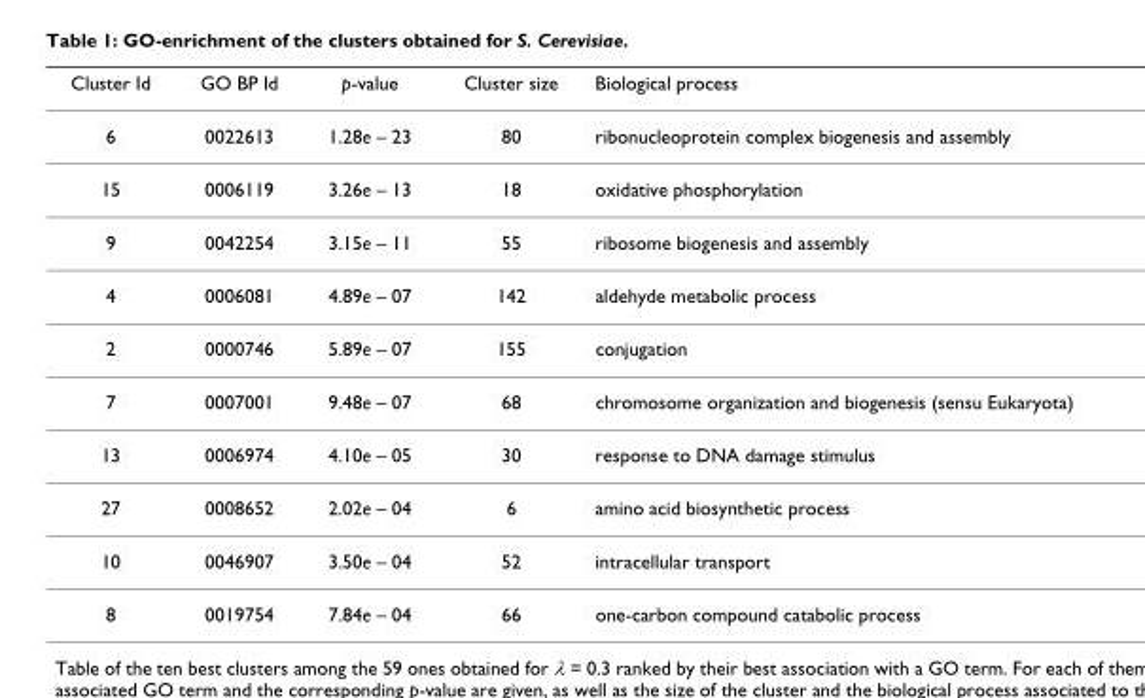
<table><thead><tr><td>Cluster Id</td><td>GO BP Id</td><td>p-value</td><td>Cluster size</td><td>Biological process</td></tr></thead><tbody><tr><td>6</td><td>0022613</td><td>1.28e – 23</td><td>80</td><td>ribonucleoprotein complex biogenesis and assembly</td></tr><tr><td>15</td><td>0006119</td><td>3.26e – 13</td><td>18</td><td>oxidative phosphorylation</td></tr><tr><td>9</td><td>0042254</td><td>3.15e – 11</td><td>55</td><td>ribosome biogenesis and assembly</td></tr><tr><td>4</td><td>0006081</td><td>4.89e – 07</td><td>142</td><td>aldehyde metabolic process</td></tr><tr><td>2</td><td>0000746</td><td>5.89e – 07</td><td>155</td><td>conjugation</td></tr><tr><td>7</td><td>0007001</td><td>9.48e – 07</td><td>68</td><td>chromosome organization and biogenesis (sensu Eukaryota)</td></tr><tr><td>13</td><td>0006974</td><td>4.10e – 05</td><td>30</td><td>response to DNA damage stimulus</td></tr><tr><td>27</td><td>0008652</td><td>2.02e – 04</td><td>6</td><td>amino acid biosynthetic process</td></tr><tr><td>10</td><td>0046907</td><td>3.50e – 04</td><td>52</td><td>intracellular transport</td></tr><tr><td>8</td><td>0019754</td><td>7.84e – 04</td><td>66</td><td>one-carbon compound catabolic process</td></tr></tbody></table>